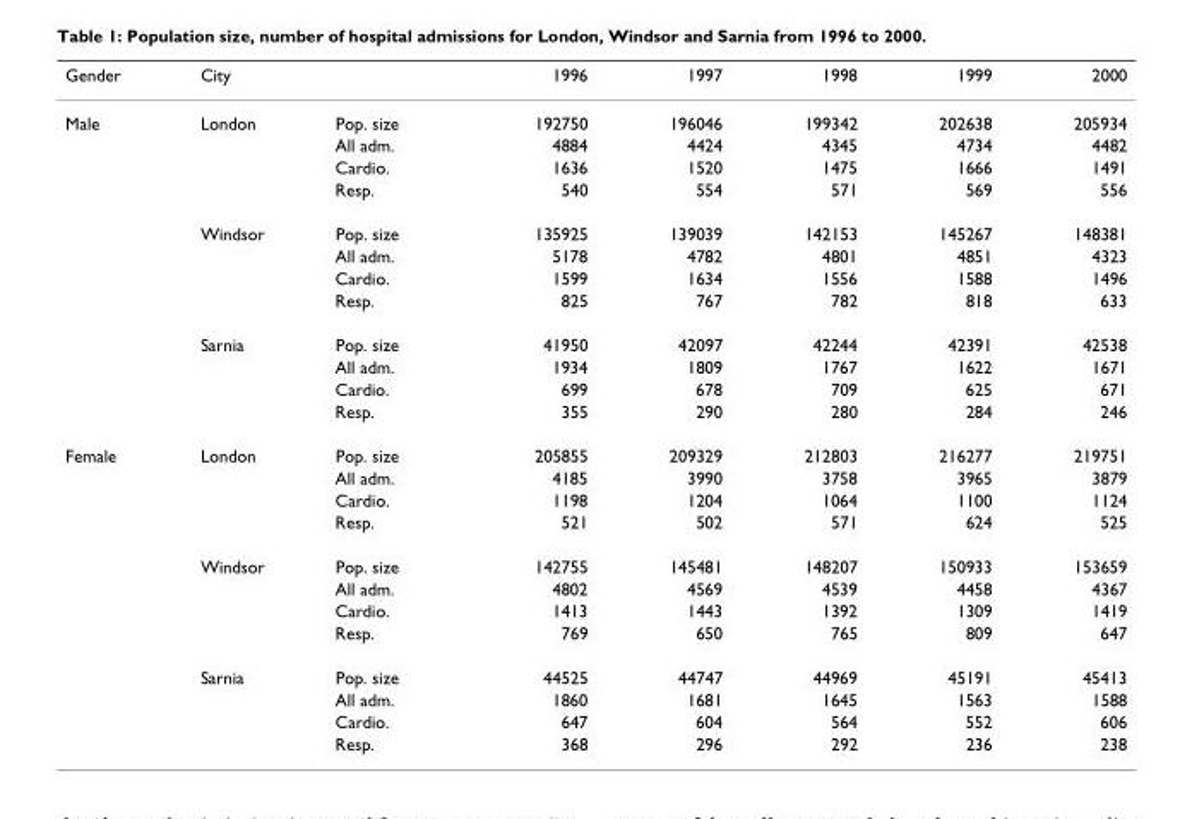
<table><thead><tr><td>Gender</td><td>City</td><td></td><td>1996</td><td>1997</td><td>1998</td><td>1999</td><td>2000</td></tr></thead><tbody><tr><td rowspan="12">Male</td><td>London</td><td>Pop. size</td><td>192750</td><td>196046</td><td>199342</td><td>202638</td><td>205934</td></tr><tr><td></td><td>All adm.</td><td>4884</td><td>4424</td><td>4345</td><td>4734</td><td>4482</td></tr><tr><td></td><td>Cardio.</td><td>1636</td><td>1520</td><td>1475</td><td>1666</td><td>1491</td></tr><tr><td></td><td>Resp.</td><td>540</td><td>554</td><td>571</td><td>569</td><td>556</td></tr><tr><td>Windsor</td><td>Pop. size</td><td>135925</td><td>139039</td><td>142153</td><td>145267</td><td>148381</td></tr><tr><td></td><td>All adm.</td><td>5178</td><td>4782</td><td>4801</td><td>4851</td><td>4323</td></tr><tr><td></td><td>Cardio.</td><td>1599</td><td>1634</td><td>1556</td><td>1588</td><td>1496</td></tr><tr><td></td><td>Resp.</td><td>825</td><td>767</td><td>782</td><td>818</td><td>633</td></tr><tr><td>Sarnia</td><td>Pop. size</td><td>41950</td><td>42097</td><td>42244</td><td>42391</td><td>42538</td></tr><tr><td></td><td>All adm.</td><td>1934</td><td>1809</td><td>1767</td><td>1622</td><td>1671</td></tr><tr><td></td><td>Cardio.</td><td>699</td><td>678</td><td>709</td><td>625</td><td>671</td></tr><tr><td></td><td>Resp.</td><td>355</td><td>290</td><td>280</td><td>284</td><td>246</td></tr><tr><td rowspan="12">Female</td><td>London</td><td>Pop. size</td><td>205855</td><td>209329</td><td>212803</td><td>216277</td><td>219751</td></tr><tr><td></td><td>All adm.</td><td>4185</td><td>3990</td><td>3758</td><td>3965</td><td>3879</td></tr><tr><td></td><td>Cardio.</td><td>1198</td><td>1204</td><td>1064</td><td>1100</td><td>1124</td></tr><tr><td></td><td>Resp.</td><td>521</td><td>502</td><td>571</td><td>624</td><td>525</td></tr><tr><td>Windsor</td><td>Pop. size</td><td>142755</td><td>145481</td><td>148207</td><td>150933</td><td>153659</td></tr><tr><td></td><td>All adm.</td><td>4802</td><td>4569</td><td>4539</td><td>4458</td><td>4367</td></tr><tr><td></td><td>Cardio.</td><td>1413</td><td>1443</td><td>1392</td><td>1309</td><td>1419</td></tr><tr><td></td><td>Resp.</td><td>769</td><td>650</td><td>765</td><td>809</td><td>647</td></tr><tr><td>Sarnia</td><td>Pop. size</td><td>44525</td><td>44747</td><td>44969</td><td>45191</td><td>45413</td></tr><tr><td></td><td>All adm.</td><td>1860</td><td>1681</td><td>1645</td><td>1563</td><td>1588</td></tr><tr><td></td><td>Cardio.</td><td>647</td><td>604</td><td>564</td><td>552</td><td>606</td></tr><tr><td></td><td>Resp.</td><td>368</td><td>296</td><td>292</td><td>236</td><td>238</td></tr></tbody></table>